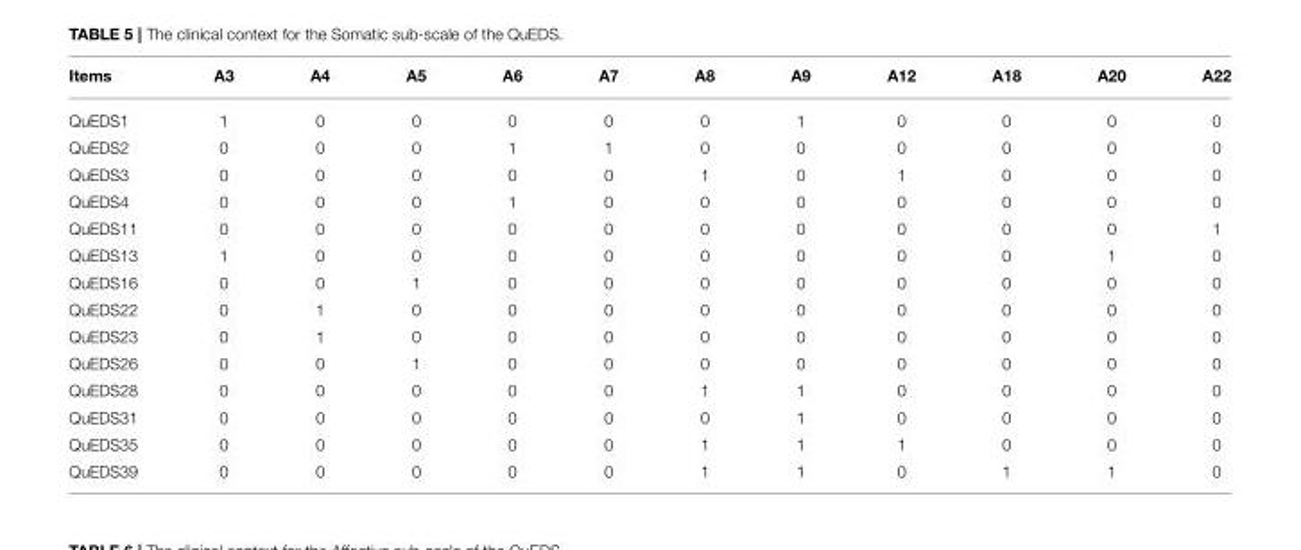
<table><thead><tr><td>Items</td><td>A3</td><td>A4</td><td>A5</td><td>A6</td><td>A7</td><td>A8</td><td>A9</td><td>A12</td><td>A18</td><td>A20</td><td>A22</td></tr></thead><tbody><tr><td>QuEDS1</td><td>1</td><td>0</td><td>0</td><td>0</td><td>0</td><td>0</td><td>1</td><td>0</td><td>0</td><td>0</td><td>0</td></tr><tr><td>QuEDS2</td><td>0</td><td>0</td><td>0</td><td>1</td><td>1</td><td>0</td><td>0</td><td>0</td><td>0</td><td>0</td><td>0</td></tr><tr><td>QuEDS3</td><td>0</td><td>0</td><td>0</td><td>0</td><td>0</td><td>1</td><td>0</td><td>1</td><td>0</td><td>0</td><td>0</td></tr><tr><td>QuEDS4</td><td>0</td><td>0</td><td>0</td><td>1</td><td>0</td><td>0</td><td>0</td><td>0</td><td>0</td><td>0</td><td>0</td></tr><tr><td>QuEDS11</td><td>0</td><td>0</td><td>0</td><td>0</td><td>0</td><td>0</td><td>0</td><td>0</td><td>0</td><td>0</td><td>1</td></tr><tr><td>QuEDS13</td><td>1</td><td>0</td><td>0</td><td>0</td><td>0</td><td>0</td><td>0</td><td>0</td><td>0</td><td>1</td><td>0</td></tr><tr><td>QuEDS16</td><td>0</td><td>0</td><td>1</td><td>0</td><td>0</td><td>0</td><td>0</td><td>0</td><td>0</td><td>0</td><td>0</td></tr><tr><td>QuEDS22</td><td>0</td><td>1</td><td>0</td><td>0</td><td>0</td><td>0</td><td>0</td><td>0</td><td>0</td><td>0</td><td>0</td></tr><tr><td>QuEDS23</td><td>0</td><td>1</td><td>0</td><td>0</td><td>0</td><td>0</td><td>0</td><td>0</td><td>0</td><td>0</td><td>0</td></tr><tr><td>QuEDS26</td><td>0</td><td>0</td><td>1</td><td>0</td><td>0</td><td>0</td><td>0</td><td>0</td><td>0</td><td>0</td><td>0</td></tr><tr><td>QuEDS28</td><td>0</td><td>0</td><td>0</td><td>0</td><td>0</td><td>1</td><td>1</td><td>0</td><td>0</td><td>0</td><td>0</td></tr><tr><td>QuEDS31</td><td>0</td><td>0</td><td>0</td><td>0</td><td>0</td><td>0</td><td>1</td><td>0</td><td>0</td><td>0</td><td>0</td></tr><tr><td>QuEDS35</td><td>0</td><td>0</td><td>0</td><td>0</td><td>0</td><td>1</td><td>1</td><td>1</td><td>0</td><td>0</td><td>0</td></tr><tr><td>QuEDS39</td><td>0</td><td>0</td><td>0</td><td>0</td><td>0</td><td>1</td><td>1</td><td>0</td><td>1</td><td>1</td><td>0</td></tr></tbody></table>